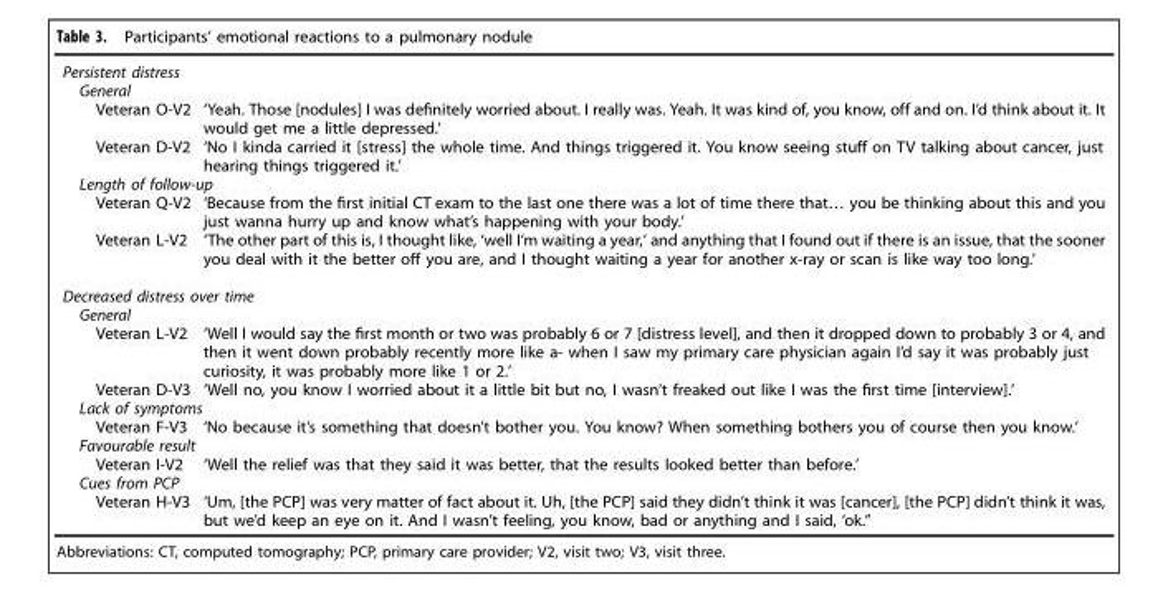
<table><tbody><tr><td colspan="2">Persistent distress</td></tr><tr><td colspan="2">General</td></tr><tr><td>Veteran O-V2</td><td>‘Yeah. Those [nodules] I was definitely worried about. I really was. Yeah. It was kind of, you know, off and on. I’d think about it. It would get me a little depressed.’</td></tr><tr><td>Veteran D-V2</td><td>‘No I kinda carried it [stress] the whole time. And things triggered it. You know seeing stuff on TV talking about cancer, just hearing things triggered it.’</td></tr><tr><td colspan="2">Length of follow-up</td></tr><tr><td>Veteran Q-V2</td><td>‘Because from the first initial CT exam to the last one there was a lot of time there that… you be thinking about this and you just wanna hurry up and know what’s happening with your body.’</td></tr><tr><td>Veteran L-V2</td><td>‘The other part of this is, I thought like, ‘well I’m waiting a year,’ and anything that I found out if there is an issue, that the sooner you deal with it the better off you are, and I thought waiting a year for another x-ray or scan is like way too long.’</td></tr><tr><td colspan="2">Decreased distress over time</td></tr><tr><td colspan="2">General</td></tr><tr><td>Veteran L-V2</td><td>‘Well I would say the first month or two was probably 6 or 7 [distress level], and then it dropped down to probably 3 or 4, and then it went down probably recently more like a- when I saw my primary care physician again I’d say it was probably just curiosity, it was probably more like 1 or 2.’</td></tr><tr><td>Veteran D-V3</td><td>‘Well no, you know I worried about it a little bit but no, I wasn’t freaked out like I was the first time [interview].’</td></tr><tr><td colspan="2">Lack of symptoms</td></tr><tr><td>Veteran F-V3</td><td>‘No because it’s something that doesn’t bother you. You know? When something bothers you of course then you know.’</td></tr><tr><td colspan="2">Favourable result</td></tr><tr><td>Veteran I-V2</td><td>‘Well the relief was that they said it was better, that the results looked better than before.’</td></tr><tr><td colspan="2">Cues from PCP</td></tr><tr><td>Veteran H-V3</td><td>‘Um, [the PCP] was very matter of fact about it. Uh, [the PCP] said they didn’t think it was [cancer], [the PCP] didn’t think it was, but we’d keep an eye on it. And I wasn’t feeling, you know, bad or anything and I said, ‘ok.’’</td></tr></tbody></table>